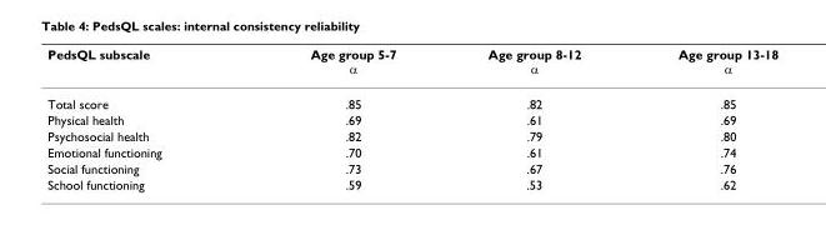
<table><thead><tr><td>PedsQL subscale</td><td>Age group 5-7 α</td><td>Age group 8-12 α</td><td>Age group 13-18 α</td></tr></thead><tbody><tr><td>Total score</td><td>.85</td><td>.82</td><td>.85</td></tr><tr><td>Physical health</td><td>.69</td><td>.61</td><td>.69</td></tr><tr><td>Psychosocial health</td><td>.82</td><td>.79</td><td>.80</td></tr><tr><td>Emotional functioning</td><td>.70</td><td>.61</td><td>.74</td></tr><tr><td>Social functioning</td><td>.73</td><td>.67</td><td>.76</td></tr><tr><td>School functioning</td><td>.59</td><td>.53</td><td>.62</td></tr></tbody></table>